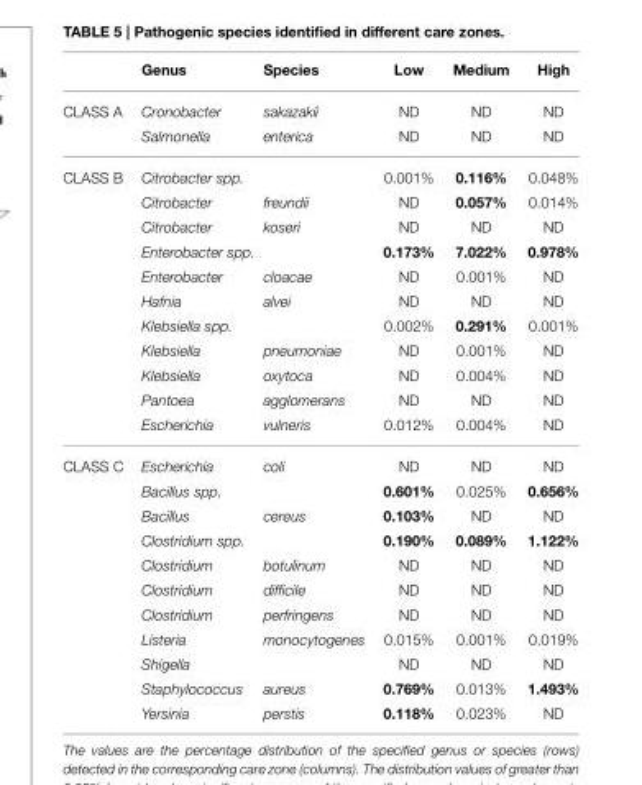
<table><thead><tr><td></td><td>Genus</td><td>Species</td><td>Low</td><td>Medium</td><td>High</td></tr></thead><tbody><tr><td rowspan="2">CLASS A</td><td>Cronobacter</td><td>sakazakii</td><td>ND</td><td>ND</td><td>ND</td></tr><tr><td>Salmonella</td><td>enterica</td><td>ND</td><td>ND</td><td>ND</td></tr><tr><td rowspan="11">CLASS B</td><td>Citrobacter spp.</td><td></td><td>0.001%</td><td>0.116%</td><td>0.048%</td></tr><tr><td>Citrobacter</td><td>freundii</td><td>ND</td><td>0.057%</td><td>0.014%</td></tr><tr><td>Citrobacter</td><td>koseri</td><td>ND</td><td>ND</td><td>ND</td></tr><tr><td colspan="2">Enterobacter spp.</td><td>0.173%</td><td>7.022%</td><td>0.978%</td></tr><tr><td>Enterobacter</td><td>cloacae</td><td>ND</td><td>0.001%</td><td>ND</td></tr><tr><td>Hafnia</td><td>alvei</td><td>ND</td><td>ND</td><td>ND</td></tr><tr><td>Klebsiella spp.</td><td></td><td>0.002%</td><td>0.291%</td><td>0.001%</td></tr><tr><td>Klebsiella</td><td>pneumoniae</td><td>ND</td><td>0.001%</td><td>ND</td></tr><tr><td>Klebsiella</td><td>oxytoca</td><td>ND</td><td>0.004%</td><td>ND</td></tr><tr><td>Pantoea</td><td>agglomerans</td><td>ND</td><td>ND</td><td>ND</td></tr><tr><td>Escherichia</td><td>vulneris</td><td>0.012%</td><td>0.004%</td><td>ND</td></tr><tr><td rowspan="11">CLASS C</td><td>Escherichia</td><td>coli</td><td>ND</td><td>ND</td><td>ND</td></tr><tr><td>Bacillus spp.</td><td></td><td>0.601%</td><td>0.025%</td><td>0.656%</td></tr><tr><td>Bacillus</td><td>cereus</td><td>0.103%</td><td>ND</td><td>ND</td></tr><tr><td>Clostridium spp.</td><td></td><td>0.190%</td><td>0.089%</td><td>1.122%</td></tr><tr><td>Clostridium</td><td>botulinum</td><td>ND</td><td>ND</td><td>ND</td></tr><tr><td>Clostridium</td><td>difficile</td><td>ND</td><td>ND</td><td>ND</td></tr><tr><td>Clostridium</td><td>perfringens</td><td>ND</td><td>ND</td><td>ND</td></tr><tr><td>Listeria</td><td>monocytogenes</td><td>0.015%</td><td>0.001%</td><td>0.019%</td></tr><tr><td>Shigella</td><td></td><td>ND</td><td>ND</td><td>ND</td></tr><tr><td>Staphylococcus</td><td>aureus</td><td>0.769%</td><td>0.013%</td><td>1.493%</td></tr><tr><td>Yersinia</td><td>perstis</td><td>0.118%</td><td>0.023%</td><td>ND</td></tr></tbody></table>